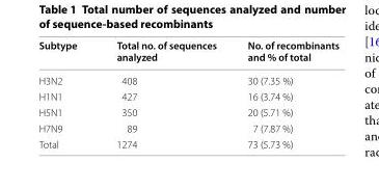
<table><thead><tr><td>Subtype</td><td>Total no. of sequences analyzed</td><td>No. of recombinants and % of total</td></tr></thead><tbody><tr><td>H3N2</td><td>408</td><td>30 (7.35 %)</td></tr><tr><td>H1N1</td><td>427</td><td>16 (3.74 %)</td></tr><tr><td>H5N1</td><td>350</td><td>20 (5.71 %)</td></tr><tr><td>H7N9</td><td>89</td><td>7 (7.87 %)</td></tr><tr><td>Total</td><td>1274</td><td>73 (5.73 %)</td></tr></tbody></table>